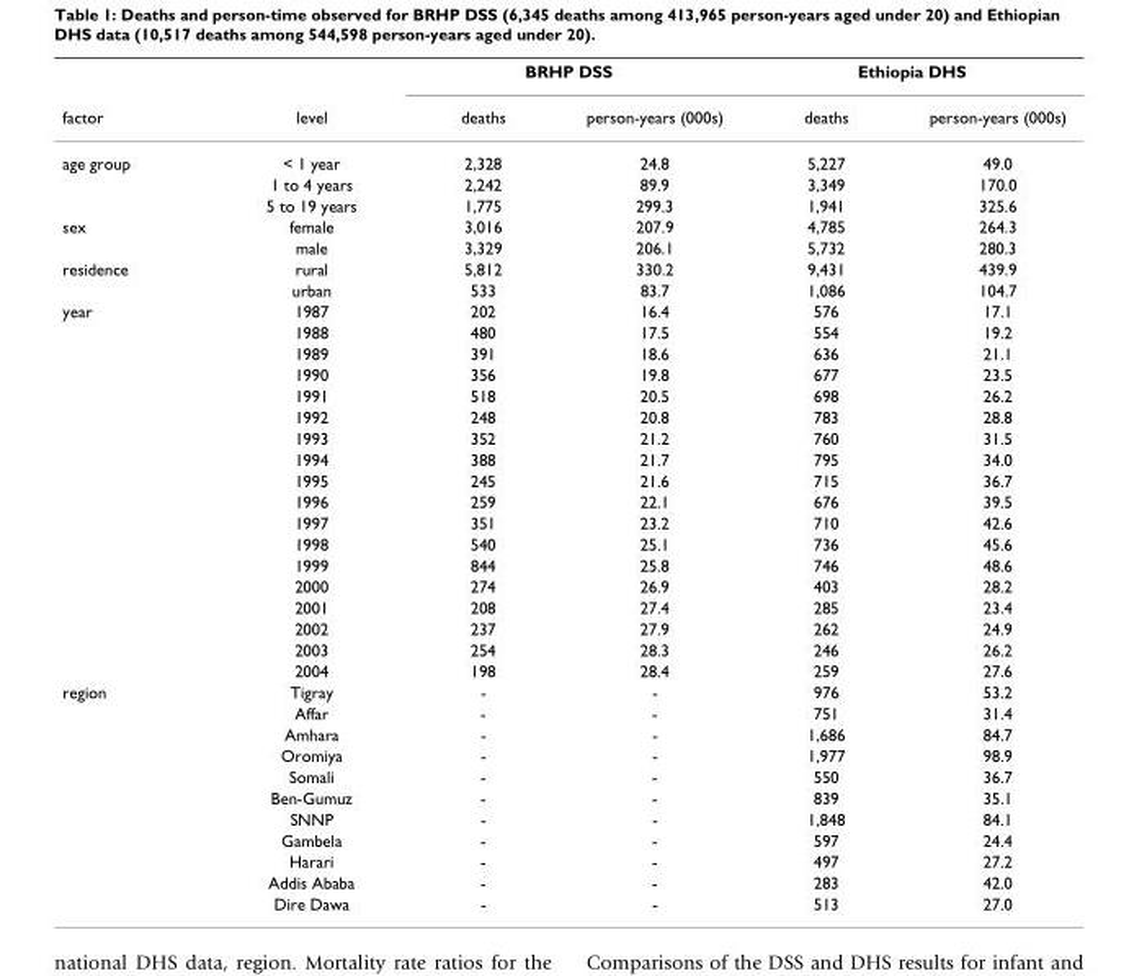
<table><thead><tr><td rowspan="2">factor</td><td rowspan="2">level</td><td colspan="2">BRHP DSS</td><td colspan="2">Ethiopia DHS</td></tr><tr><td>deaths</td><td>person-years (000s)</td><td>deaths</td><td>person-years (000s)</td></tr></thead><tbody><tr><td rowspan="3">age group</td><td>&lt; 1 year</td><td>2,328</td><td>24.8</td><td>5,227</td><td>49.0</td></tr><tr><td>1 to 4 years</td><td>2,242</td><td>89.9</td><td>3,349</td><td>170.0</td></tr><tr><td>5 to 19 years</td><td>1,775</td><td>299.3</td><td>1,941</td><td>325.6</td></tr><tr><td rowspan="2">sex</td><td>female</td><td>3,016</td><td>207.9</td><td>4,785</td><td>264.3</td></tr><tr><td>male</td><td>3,329</td><td>206.1</td><td>5,732</td><td>280.3</td></tr><tr><td rowspan="2">residence</td><td>rural</td><td>5,812</td><td>330.2</td><td>9,431</td><td>439.9</td></tr><tr><td>urban</td><td>533</td><td>83.7</td><td>1,086</td><td>104.7</td></tr><tr><td rowspan="18">year</td><td>1987</td><td>202</td><td>16.4</td><td>576</td><td>17.1</td></tr><tr><td>1988</td><td>480</td><td>17.5</td><td>554</td><td>19.2</td></tr><tr><td>1989</td><td>391</td><td>18.6</td><td>636</td><td>21.1</td></tr><tr><td>1990</td><td>356</td><td>19.8</td><td>677</td><td>23.5</td></tr><tr><td>1991</td><td>518</td><td>20.5</td><td>698</td><td>26.2</td></tr><tr><td>1992</td><td>248</td><td>20.8</td><td>783</td><td>28.8</td></tr><tr><td>1993</td><td>352</td><td>21.2</td><td>760</td><td>31.5</td></tr><tr><td>1994</td><td>388</td><td>21.7</td><td>795</td><td>34.0</td></tr><tr><td>1995</td><td>245</td><td>21.6</td><td>715</td><td>36.7</td></tr><tr><td>1996</td><td>259</td><td>22.1</td><td>676</td><td>39.5</td></tr><tr><td>1997</td><td>351</td><td>23.2</td><td>710</td><td>42.6</td></tr><tr><td>1998</td><td>540</td><td>25.1</td><td>736</td><td>45.6</td></tr><tr><td>1999</td><td>844</td><td>25.8</td><td>746</td><td>48.6</td></tr><tr><td>2000</td><td>274</td><td>26.9</td><td>403</td><td>28.2</td></tr><tr><td>2001</td><td>208</td><td>27.4</td><td>285</td><td>23.4</td></tr><tr><td>2002</td><td>237</td><td>27.9</td><td>262</td><td>24.9</td></tr><tr><td>2003</td><td>254</td><td>28.3</td><td>246</td><td>26.2</td></tr><tr><td>2004</td><td>198</td><td>28.4</td><td>259</td><td>27.6</td></tr><tr><td rowspan="11">region</td><td>Tigray</td><td>-</td><td>-</td><td>976</td><td>53.2</td></tr><tr><td>Affar</td><td>-</td><td>-</td><td>751</td><td>31.4</td></tr><tr><td>Amhara</td><td>-</td><td>-</td><td>1,686</td><td>84.7</td></tr><tr><td>Oromiya</td><td>-</td><td>-</td><td>1,977</td><td>98.9</td></tr><tr><td>Somali</td><td>-</td><td>-</td><td>550</td><td>36.7</td></tr><tr><td>Ben-Gumuz</td><td>-</td><td>-</td><td>839</td><td>35.1</td></tr><tr><td>SNNP</td><td>-</td><td>-</td><td>1,848</td><td>84.1</td></tr><tr><td>Gambela</td><td>-</td><td>-</td><td>597</td><td>24.4</td></tr><tr><td>Harari</td><td>-</td><td>-</td><td>497</td><td>27.2</td></tr><tr><td>Addis Ababa</td><td>-</td><td>-</td><td>283</td><td>42.0</td></tr><tr><td>Dire Dawa</td><td>-</td><td>-</td><td>513</td><td>27.0</td></tr></tbody></table>